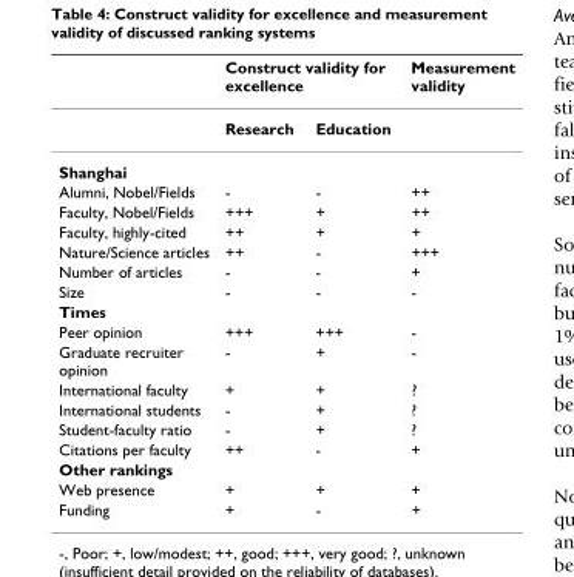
<table><thead><tr><td rowspan="2"></td><td colspan="2">Construct validity for excellence</td><td rowspan="2">Measurement validity</td></tr><tr><td>Research</td><td>Education</td></tr></thead><tbody><tr><td colspan="4">Shanghai</td></tr><tr><td>Alumni, Nobel/Fields</td><td>-</td><td>-</td><td>++</td></tr><tr><td>Faculty, Nobel/Fields</td><td>+++</td><td>+</td><td>++</td></tr><tr><td>Faculty, highly-cited</td><td>++</td><td>+</td><td>+</td></tr><tr><td>Nature/Science articles</td><td>++</td><td>-</td><td>+++</td></tr><tr><td>Number of articles</td><td>-</td><td>-</td><td>+</td></tr><tr><td>Size</td><td>-</td><td>-</td><td>-</td></tr><tr><td colspan="4">Times</td></tr><tr><td>Peer opinion</td><td>+++</td><td>+++</td><td>-</td></tr><tr><td>Graduate recruiter opinion</td><td>-</td><td>+</td><td>-</td></tr><tr><td>International faculty</td><td>+</td><td>+</td><td>?</td></tr><tr><td>International students</td><td>-</td><td>+</td><td>?</td></tr><tr><td>Student-faculty ratio</td><td>-</td><td>+</td><td>?</td></tr><tr><td>Citations per faculty</td><td>++</td><td>-</td><td>+</td></tr><tr><td colspan="4">Other rankings</td></tr><tr><td>Web presence</td><td>+</td><td>+</td><td>+</td></tr><tr><td>Funding</td><td>+</td><td>-</td><td>+</td></tr></tbody></table>